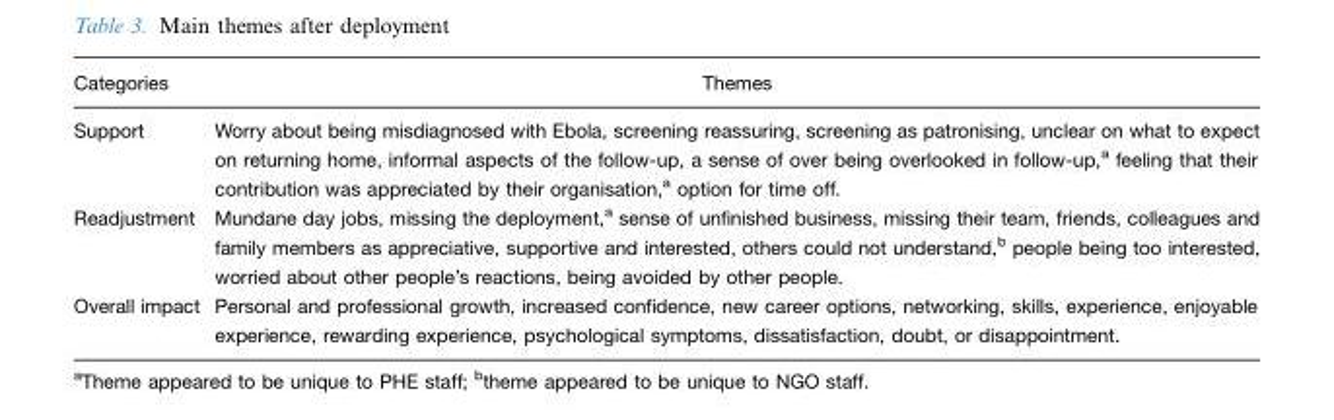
<table><thead><tr><td>Categories</td><td>Themes</td></tr></thead><tbody><tr><td>Support</td><td>Worry about being misdiagnosed with Ebola, screening reassuring, screening as patronising, unclear on what to expect on returning home, informal aspects of the follow-up, a sense of over being overlooked in follow-up,<sup>a</sup> feeling that their contribution was appreciated by their organisation,<sup>a</sup> option for time off.</td></tr><tr><td>Readjustment</td><td>Mundane day jobs, missing the deployment,<sup>a</sup> sense of unfinished business, missing their team, friends, colleagues and family members as appreciative, supportive and interested, others could not understand,<sup>b</sup> people being too interested, worried about other people’s reactions, being avoided by other people.</td></tr><tr><td>Overall impact</td><td>Personal and professional growth, increased confidence, new career options, networking, skills, experience, enjoyable experience, rewarding experience, psychological symptoms, dissatisfaction, doubt, or disappointment.</td></tr></tbody></table>